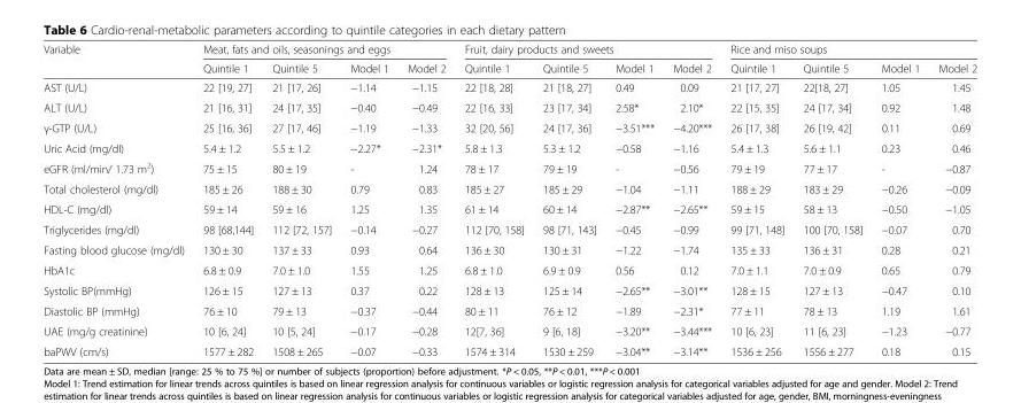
<table><thead><tr><td rowspan="2">Variable</td><td colspan="4">Meat, fats and oils, seasonings and eggs</td><td colspan="4">Fruit, dairy products and sweets</td><td colspan="4">Rice and miso soups</td></tr><tr><td>Quintile 1</td><td>Quintile 5</td><td>Model 1</td><td>Model 2</td><td>Quintile 1</td><td>Quintile 5</td><td>Model 1</td><td>Model 2</td><td>Quintile 1</td><td>Quintile 5</td><td>Model 1</td><td>Model 2</td></tr></thead><tbody><tr><td>AST (U/L)</td><td>22 [19, 27]</td><td>21 [17, 26]</td><td>−1.14</td><td>−1.15</td><td>22 [18, 28]</td><td>21 [18, 27]</td><td>0.49</td><td>0.09</td><td>21 [17, 27]</td><td>22[18, 27]</td><td>1.05</td><td>1.45</td></tr><tr><td>ALT (U/L)</td><td>21 [16, 31]</td><td>24 [17, 35]</td><td>−0.40</td><td>−0.49</td><td>22 [16, 33]</td><td>23 [17, 34]</td><td>2.58*</td><td>2.10*</td><td>22 [15, 35]</td><td>24 [17, 34]</td><td>0.92</td><td>1.48</td></tr><tr><td>γ-GTP (U/L)</td><td>25 [16, 36]</td><td>27 [17, 46]</td><td>−1.19</td><td>−1.33</td><td>32 [20, 56]</td><td>24 [17, 36]</td><td>−3.51***</td><td>−4.20***</td><td>26 [17, 38]</td><td>26 [19, 42]</td><td>0.11</td><td>0.69</td></tr><tr><td>Uric Acid (mg/dl)</td><td>5.4 ± 1.2</td><td>5.5 ± 1.2</td><td>−2.27*</td><td>−2.31*</td><td>5.8 ± 1.3</td><td>5.3 ± 1.2</td><td>−0.58</td><td>−1.16</td><td>5.4 ± 1.3</td><td>5.6 ± 1.1</td><td>0.23</td><td>0.46</td></tr><tr><td>eGFR (ml/min/ 1.73 m<sup>2</sup>)</td><td>75 ± 15</td><td>80 ± 19</td><td>-</td><td>1.24</td><td>78 ± 17</td><td>79 ± 19</td><td>-</td><td>−0.56</td><td>79 ± 19</td><td>77 ± 17</td><td>-</td><td>−0.87</td></tr><tr><td>Total cholesterol (mg/dl)</td><td>185 ± 26</td><td>188 ± 30</td><td>0.79</td><td>0.83</td><td>185 ± 27</td><td>185 ± 29</td><td>−1.04</td><td>−1.11</td><td>188 ± 29</td><td>183 ± 29</td><td>−0.26</td><td>−0.09</td></tr><tr><td>HDL-C (mg/dl)</td><td>59 ± 14</td><td>59 ± 16</td><td>1.25</td><td>1.35</td><td>61 ± 14</td><td>60 ± 14</td><td>−2.87**</td><td>−2.65**</td><td>59 ± 15</td><td>58 ± 13</td><td>−0.50</td><td>−1.05</td></tr><tr><td>Triglycerides (mg/dl)</td><td>98 [68,144]</td><td>112 [72, 157]</td><td>−0.14</td><td>−0.27</td><td>112 [70, 158]</td><td>98 [71, 143]</td><td>−0.45</td><td>−0.99</td><td>99 [71, 148]</td><td>100 [70, 158]</td><td>−0.07</td><td>0.70</td></tr><tr><td>Fasting blood glucose (mg/dl)</td><td>130 ± 30</td><td>137 ± 33</td><td>0.93</td><td>0.64</td><td>136 ± 30</td><td>130 ± 31</td><td>−1.22</td><td>−1.74</td><td>135 ± 33</td><td>136 ± 31</td><td>0.28</td><td>0.21</td></tr><tr><td>HbA1c</td><td>6.8 ± 0.9</td><td>7.0 ± 1.0</td><td>1.55</td><td>1.25</td><td>6.8 ± 1.0</td><td>6.9 ± 0.9</td><td>0.56</td><td>0.12</td><td>7.0 ± 1.1</td><td>7.0 ± 0.9</td><td>0.65</td><td>0.79</td></tr><tr><td>Systolic BP(mmHg)</td><td>126 ± 15</td><td>127 ± 13</td><td>0.37</td><td>0.22</td><td>128 ± 13</td><td>125 ± 14</td><td>−2.65**</td><td>−3.01**</td><td>128 ± 15</td><td>127 ± 13</td><td>−0.47</td><td>0.10</td></tr><tr><td>Diastolic BP (mmHg)</td><td>76 ± 10</td><td>79 ± 13</td><td>−0.37</td><td>−0.44</td><td>80 ± 11</td><td>76 ± 12</td><td>−1.89</td><td>−2.31*</td><td>77 ± 11</td><td>78 ± 13</td><td>1.19</td><td>1.61</td></tr><tr><td>UAE (mg/g creatinine)</td><td>10 [6, 24]</td><td>10 [5, 24]</td><td>−0.17</td><td>−0.28</td><td>12[7, 36]</td><td>9 [6, 18]</td><td>−3.20**</td><td>−3.44***</td><td>10 [6, 23]</td><td>11 [6, 23]</td><td>−1.23</td><td>−0.77</td></tr><tr><td>baPWV (cm/s)</td><td>1577 ± 282</td><td>1508 ± 265</td><td>−0.07</td><td>−0.33</td><td>1574 ± 314</td><td>1530 ± 259</td><td>−3.04**</td><td>−3.14**</td><td>1536 ± 256</td><td>1556 ± 277</td><td>0.18</td><td>0.15</td></tr></tbody></table>